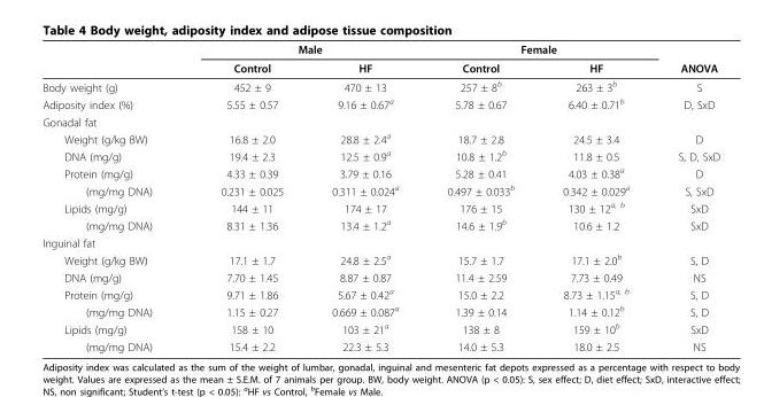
<table><thead><tr><td rowspan="2"></td><td colspan="2">Male</td><td colspan="2">Female</td><td rowspan="2">ANOVA</td></tr><tr><td>Control</td><td>HF</td><td>Control</td><td>HF</td></tr></thead><tbody><tr><td>Body weight (g)</td><td>452 ± 9</td><td>470 ± 13</td><td>257 ± 8<sup>b</sup></td><td>263 ± 3<sup>b</sup></td><td>S</td></tr><tr><td>Adiposity index (%)</td><td>5.55 ± 0.57</td><td>9.16 ± 0.67<sup>a</sup></td><td>5.78 ± 0.67</td><td>6.40 ± 0.71<sup>b</sup></td><td>D, SxD</td></tr><tr><td colspan="6">Gonadal fat</td></tr><tr><td>Weight (g/kg BW)</td><td>16.8 ± 2.0</td><td>28.8 ± 2.4<sup>a</sup></td><td>18.7 ± 2.8</td><td>24.5 ± 3.4</td><td>D</td></tr><tr><td>DNA (mg/g)</td><td>19.4 ± 2.3</td><td>12.5 ± 0.9<sup>a</sup></td><td>10.8 ± 1.2<sup>b</sup></td><td>11.8 ± 0.5</td><td>S, D, SxD</td></tr><tr><td>Protein (mg/g)</td><td>4.33 ± 0.39</td><td>3.79 ± 0.16</td><td>5.28 ± 0.41</td><td>4.03 ± 0.38<sup>a</sup></td><td>D</td></tr><tr><td>(mg/mg DNA)</td><td>0.231 ± 0.025</td><td>0.311 ± 0.024<sup>a</sup></td><td>0.497 ± 0.033<sup>b</sup></td><td>0.342 ± 0.029<sup>a</sup></td><td>S, SxD</td></tr><tr><td>Lipids (mg/g)</td><td>144 ± 11</td><td>174 ± 17</td><td>176 ± 15</td><td>130 ± 12<sup>a, b</sup></td><td>SxD</td></tr><tr><td>(mg/mg DNA)</td><td>8.31 ± 1.36</td><td>13.4 ± 1.2<sup>a</sup></td><td>14.6 ± 1.9<sup>b</sup></td><td>10.6 ± 1.2</td><td>SxD</td></tr><tr><td colspan="6">Inguinal fat</td></tr><tr><td>Weight (g/kg BW)</td><td>17.1 ± 1.7</td><td>24.8 ± 2.5<sup>a</sup></td><td>15.7 ± 1.7</td><td>17.1 ± 2.0<sup>b</sup></td><td>S, D</td></tr><tr><td>DNA (mg/g)</td><td>7.70 ± 1.45</td><td>8.87 ± 0.87</td><td>11.4 ± 2.59</td><td>7.73 ± 0.49</td><td>NS</td></tr><tr><td>Protein (mg/g)</td><td>9.71 ± 1.86</td><td>5.67 ± 0.42<sup>a</sup></td><td>15.0 ± 2.2</td><td>8.73 ± 1.15<sup>a, b</sup></td><td>S, D</td></tr><tr><td>(mg/mg DNA)</td><td>1.15 ± 0.27</td><td>0.669 ± 0.087<sup>a</sup></td><td>1.39 ± 0.14</td><td>1.14 ± 0.12<sup>b</sup></td><td>S, D</td></tr><tr><td>Lipids (mg/g)</td><td>158 ± 10</td><td>103 ± 21<sup>a</sup></td><td>138 ± 8</td><td>159 ± 10<sup>b</sup></td><td>SxD</td></tr><tr><td>(mg/mg DNA)</td><td>15.4 ± 2.2</td><td>22.3 ± 5.3</td><td>14.0 ± 5.3</td><td>18.0 ± 2.5</td><td>NS</td></tr></tbody></table>